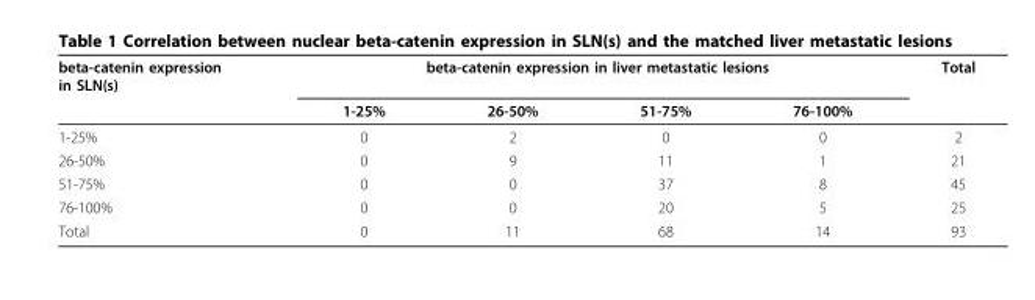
<table><thead><tr><td rowspan="2">beta-catenin expression in SLN(s)</td><td colspan="4">beta-catenin expression in liver metastatic lesions</td><td rowspan="2">Total</td></tr><tr><td>1-25%</td><td>26-50%</td><td>51-75%</td><td>76-100%</td></tr></thead><tbody><tr><td>1-25%</td><td>0</td><td>2</td><td>0</td><td>0</td><td>2</td></tr><tr><td>26-50%</td><td>0</td><td>9</td><td>11</td><td>1</td><td>21</td></tr><tr><td>51-75%</td><td>0</td><td>0</td><td>37</td><td>8</td><td>45</td></tr><tr><td>76-100%</td><td>0</td><td>0</td><td>20</td><td>5</td><td>25</td></tr><tr><td>Total</td><td>0</td><td>11</td><td>68</td><td>14</td><td>93</td></tr></tbody></table>